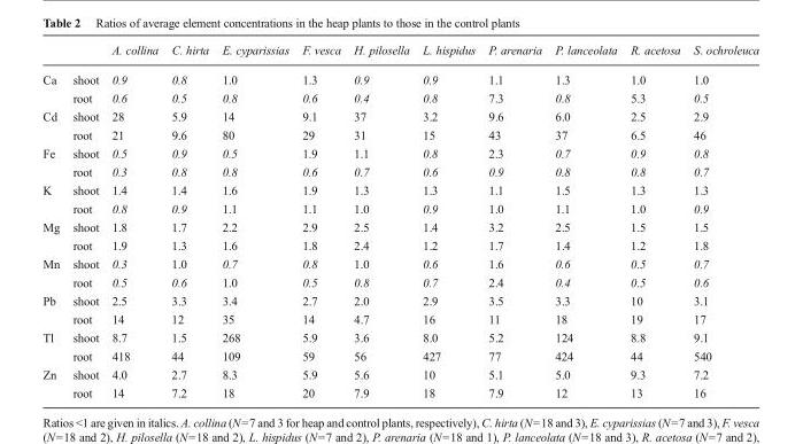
<table><thead><tr><td></td><td></td><td>A. collina</td><td>C. hirta</td><td>E. cyparissias</td><td>F. vesca</td><td>H. pilosella</td><td>L. hispidus</td><td>P. arenaria</td><td>P. lanceolata</td><td>R. acetosa</td><td>S. ochroleuca</td></tr></thead><tbody><tr><td rowspan="2">Ca</td><td>shoot</td><td>0.9</td><td>0.8</td><td>1.0</td><td>1.3</td><td>0.9</td><td>0.9</td><td>1.1</td><td>1.3</td><td>1.0</td><td>1.0</td></tr><tr><td>root</td><td>0.6</td><td>0.5</td><td>0.8</td><td>0.6</td><td>0.4</td><td>0.8</td><td>7.3</td><td>0.8</td><td>5.3</td><td>0.5</td></tr><tr><td rowspan="2">Cd</td><td>shoot</td><td>28</td><td>5.9</td><td>14</td><td>9.1</td><td>37</td><td>3.2</td><td>9.6</td><td>6.0</td><td>2.5</td><td>2.9</td></tr><tr><td>root</td><td>21</td><td>9.6</td><td>80</td><td>29</td><td>31</td><td>15</td><td>43</td><td>37</td><td>6.5</td><td>46</td></tr><tr><td rowspan="2">Fe</td><td>shoot</td><td>0.5</td><td>0.9</td><td>0.5</td><td>1.9</td><td>1.1</td><td>0.8</td><td>2.3</td><td>0.7</td><td>0.9</td><td>0.8</td></tr><tr><td>root</td><td>0.3</td><td>0.8</td><td>0.8</td><td>0.6</td><td>0.7</td><td>0.6</td><td>0.9</td><td>0.8</td><td>0.8</td><td>0.7</td></tr><tr><td rowspan="2">K</td><td>shoot</td><td>1.4</td><td>1.4</td><td>1.6</td><td>1.9</td><td>1.3</td><td>1.3</td><td>1.1</td><td>1.5</td><td>1.3</td><td>1.3</td></tr><tr><td>root</td><td>0.8</td><td>0.9</td><td>1.1</td><td>1.1</td><td>1.0</td><td>0.9</td><td>1.0</td><td>1.1</td><td>1.0</td><td>0.9</td></tr><tr><td rowspan="2">Mg</td><td>shoot</td><td>1.8</td><td>1.7</td><td>2.2</td><td>2.9</td><td>2.5</td><td>1.4</td><td>3.2</td><td>2.5</td><td>1.5</td><td>1.5</td></tr><tr><td>root</td><td>1.9</td><td>1.3</td><td>1.6</td><td>1.8</td><td>2.4</td><td>1.2</td><td>1.7</td><td>1.4</td><td>1.2</td><td>1.8</td></tr><tr><td rowspan="2">Mn</td><td>shoot</td><td>0.3</td><td>1.0</td><td>0.7</td><td>0.8</td><td>1.0</td><td>0.6</td><td>1.6</td><td>0.6</td><td>0.5</td><td>0.7</td></tr><tr><td>root</td><td>0.5</td><td>0.6</td><td>1.0</td><td>0.5</td><td>0.8</td><td>0.7</td><td>2.4</td><td>0.4</td><td>0.5</td><td>0.6</td></tr><tr><td rowspan="2">Pb</td><td>shoot</td><td>2.5</td><td>3.3</td><td>3.4</td><td>2.7</td><td>2.0</td><td>2.9</td><td>3.5</td><td>3.3</td><td>10</td><td>3.1</td></tr><tr><td>root</td><td>14</td><td>12</td><td>35</td><td>14</td><td>4.7</td><td>16</td><td>11</td><td>18</td><td>19</td><td>17</td></tr><tr><td rowspan="2">Tl</td><td>shoot</td><td>8.7</td><td>1.5</td><td>268</td><td>5.9</td><td>3.6</td><td>8.0</td><td>5.2</td><td>124</td><td>8.8</td><td>9.1</td></tr><tr><td>root</td><td>418</td><td>44</td><td>109</td><td>59</td><td>56</td><td>427</td><td>77</td><td>424</td><td>44</td><td>540</td></tr><tr><td rowspan="2">Zn</td><td>shoot</td><td>4.0</td><td>2.7</td><td>8.3</td><td>5.9</td><td>5.6</td><td>10</td><td>5.1</td><td>5.0</td><td>9.3</td><td>7.2</td></tr><tr><td>root</td><td>14</td><td>7.2</td><td>18</td><td>20</td><td>7.9</td><td>18</td><td>7.9</td><td>12</td><td>13</td><td>16</td></tr></tbody></table>